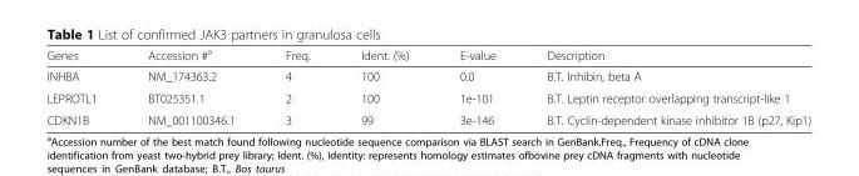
<table><thead><tr><td>Genes</td><td>Accession #<sup>a</sup></td><td>Freq.</td><td>Ident. (%)</td><td>E-value</td><td>Description</td></tr></thead><tbody><tr><td>INHBA</td><td>NM_174363.2</td><td>4</td><td>100</td><td>0.0</td><td>B.T. Inhibin, beta A</td></tr><tr><td>LEPROTL1</td><td>BT025351.1</td><td>2</td><td>100</td><td>1e-101</td><td>B.T. Leptin receptor overlapping transcript-like 1</td></tr><tr><td>CDKN1B</td><td>NM_001100346.1</td><td>3</td><td>99</td><td>3e-146</td><td>B.T. Cyclin-dependent kinase inhibitor 1B (p27, Kip1)</td></tr></tbody></table>